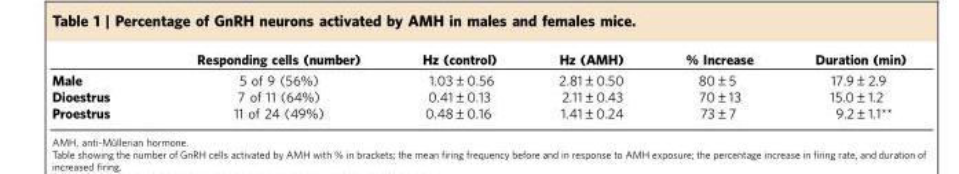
<table><thead><tr><td></td><td>Responding cells (number)</td><td>Hz (control)</td><td>Hz (AMH)</td><td>% Increase</td><td>Duration (min)</td></tr></thead><tbody><tr><td>Male</td><td>5 of 9 (56%)</td><td>1.03±0.56</td><td>2.81±0.50</td><td>80±5</td><td>17.9±2.9</td></tr><tr><td>Dioestrus</td><td>7 of 11 (64%)</td><td>0.41±0.13</td><td>2.11±0.43</td><td>70±13</td><td>15.0±1.2</td></tr><tr><td>Proestrus</td><td>11 of 24 (49%)</td><td>0.48±0.16</td><td>1.41±0.24</td><td>73±7</td><td>9.2±1.1**</td></tr></tbody></table>